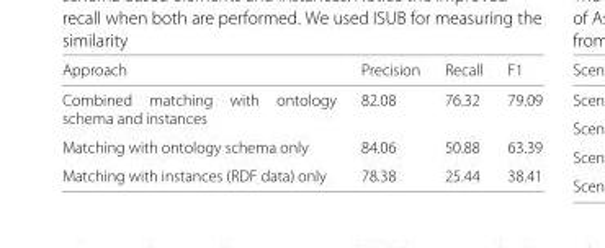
<table><thead><tr><td>Approach</td><td>Precision</td><td>Recall</td><td>F1</td></tr></thead><tbody><tr><td>Combined matching with ontology schema and instances</td><td>82.08</td><td>76.32</td><td>79.09</td></tr><tr><td>Matching with ontology schema only</td><td>84.06</td><td>50.88</td><td>63.39</td></tr><tr><td>Matching with instances (RDF data) only</td><td>78.38</td><td>25.44</td><td>38.41</td></tr></tbody></table>